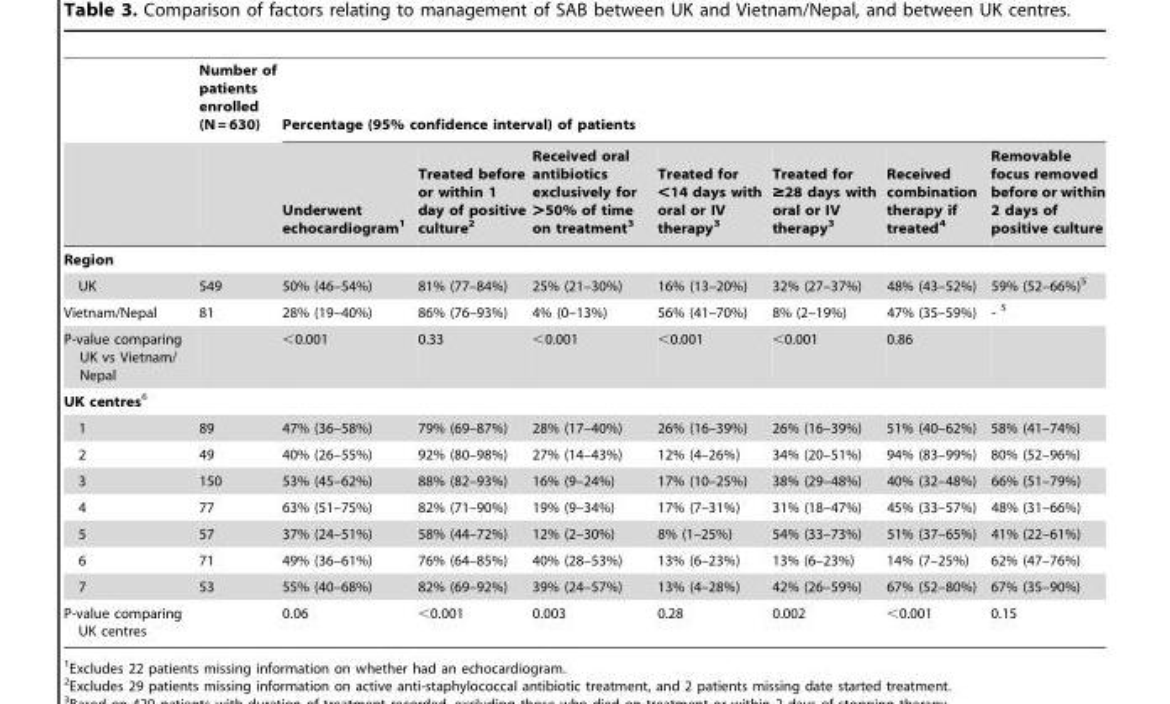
<table><thead><tr><td rowspan="2"></td><td rowspan="2">Number of patients enrolled (N = 630)</td><td colspan="7">Percentage (95% confidence interval) of patients</td></tr><tr><td>Underwent echocardiogram<sup>1</sup></td><td>Treated before or within 1 day of positive culture<sup>2</sup></td><td>Received oral antibiotics exclusively for &gt;50% of time on treatment<sup>3</sup></td><td>Treated for &lt;14 days with oral or IV therapy<sup>3</sup></td><td>Treated for ≥28 days with oral or IV therapy<sup>3</sup></td><td>Received combination therapy if treated<sup>4</sup></td><td>Removable focus removed before or within 2 days of positive culture</td></tr></thead><tbody><tr><td colspan="9">Region</td></tr><tr><td>UK</td><td>549</td><td>50% (46–54%)</td><td>81% (77–84%)</td><td>25% (21–30%)</td><td>16% (13–20%)</td><td>32% (27–37%)</td><td>48% (43–52%)</td><td>59% (52–66%)<sup>5</sup></td></tr><tr><td>Vietnam/Nepal</td><td>81</td><td>28% (19–40%)</td><td>86% (76–93%)</td><td>4% (0–13%)</td><td>56% (41–70%)</td><td>8% (2–19%)</td><td>47% (35–59%)</td><td>- 5</td></tr><tr><td>P-value comparing UK vs Vietnam/ Nepal</td><td></td><td>&lt;0.001</td><td>0.33</td><td>&lt;0.001</td><td>&lt;0.001</td><td>&lt;0.001</td><td>0.86</td><td></td></tr><tr><td colspan="9">UK centres6</td></tr><tr><td>1</td><td>89</td><td>47% (36–58%)</td><td>79% (69–87%)</td><td>28% (17–40%)</td><td>26% (16–39%)</td><td>26% (16–39%)</td><td>51% (40–62%)</td><td>58% (41–74%)</td></tr><tr><td>2</td><td>49</td><td>40% (26–55%)</td><td>92% (80–98%)</td><td>27% (14–43%)</td><td>12% (4–26%)</td><td>34% (20–51%)</td><td>94% (83–99%)</td><td>80% (52–96%)</td></tr><tr><td>3</td><td>150</td><td>53% (45–62%)</td><td>88% (82–93%)</td><td>16% (9–24%)</td><td>17% (10–25%)</td><td>38% (29–48%)</td><td>40% (32–48%)</td><td>66% (51–79%)</td></tr><tr><td>4</td><td>77</td><td>63% (51–75%)</td><td>82% (71–90%)</td><td>19% (9–34%)</td><td>17% (7–31%)</td><td>31% (18–47%)</td><td>45% (33–57%)</td><td>48% (31–66%)</td></tr><tr><td>5</td><td>57</td><td>37% (24–51%)</td><td>58% (44–72%)</td><td>12% (2–30%)</td><td>8% (1–25%)</td><td>54% (33–73%)</td><td>51% (37–65%)</td><td>41% (22–61%)</td></tr><tr><td>6</td><td>71</td><td>49% (36–61%)</td><td>76% (64–85%)</td><td>40% (28–53%)</td><td>13% (6–23%)</td><td>13% (6–23%)</td><td>14% (7–25%)</td><td>62% (47–76%)</td></tr><tr><td>7</td><td>53</td><td>55% (40–68%)</td><td>82% (69–92%)</td><td>39% (24–57%)</td><td>13% (4–28%)</td><td>42% (26–59%)</td><td>67% (52–80%)</td><td>67% (35–90%)</td></tr><tr><td>P-value comparing UK centres</td><td></td><td>0.06</td><td>&lt;0.001</td><td>0.003</td><td>0.28</td><td>0.002</td><td>&lt;0.001</td><td>0.15</td></tr></tbody></table>